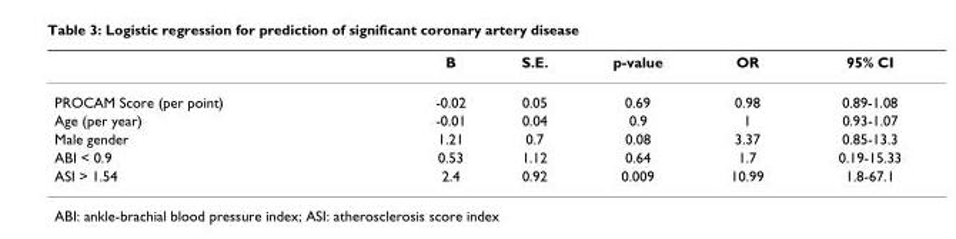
<table><thead><tr><td></td><td>B</td><td>S.E.</td><td>p-value</td><td>OR</td><td>95% CI</td></tr></thead><tbody><tr><td>PROCAM Score (per point)</td><td>-0.02</td><td>0.05</td><td>0.69</td><td>0.98</td><td>0.89-1.08</td></tr><tr><td>Age (per year)</td><td>-0.01</td><td>0.04</td><td>0.9</td><td>1</td><td>0.93-1.07</td></tr><tr><td>Male gender</td><td>1.21</td><td>0.7</td><td>0.08</td><td>3.37</td><td>0.85-13.3</td></tr><tr><td>ABI &lt; 0.9</td><td>0.53</td><td>1.12</td><td>0.64</td><td>1.7</td><td>0.19-15.33</td></tr><tr><td>ASI &gt; 1.54</td><td>2.4</td><td>0.92</td><td>0.009</td><td>10.99</td><td>1.8-67.1</td></tr></tbody></table>